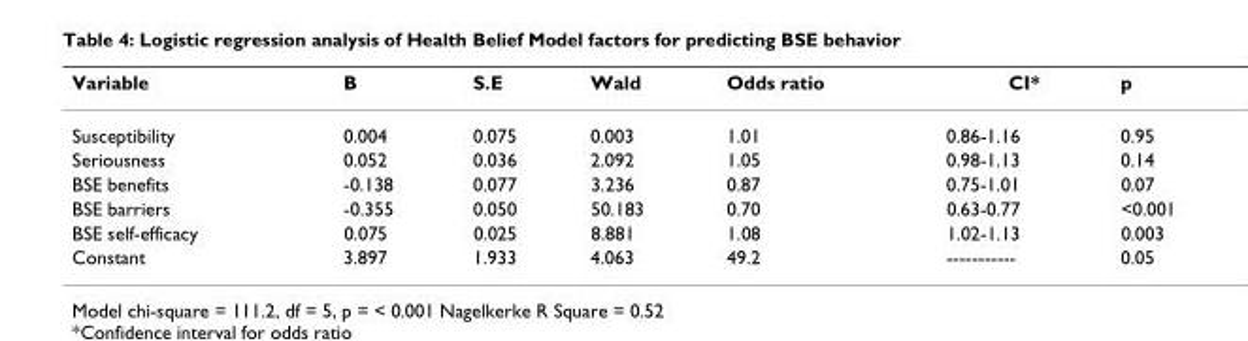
<table><thead><tr><td>Variable</td><td>B</td><td>S.E</td><td>Wald</td><td>Odds ratio</td><td>CI*</td><td>p</td></tr></thead><tbody><tr><td>Susceptibility</td><td>0.004</td><td>0.075</td><td>0.003</td><td>1.01</td><td>0.86-1.16</td><td>0.95</td></tr><tr><td>Seriousness</td><td>0.052</td><td>0.036</td><td>2.092</td><td>1.05</td><td>0.98-1.13</td><td>0.14</td></tr><tr><td>BSE benefits</td><td>-0.138</td><td>0.077</td><td>3.236</td><td>0.87</td><td>0.75-1.01</td><td>0.07</td></tr><tr><td>BSE barriers</td><td>-0.355</td><td>0.050</td><td>50.183</td><td>0.70</td><td>0.63-0.77</td><td>&lt;0.001</td></tr><tr><td>BSE self-efficacy</td><td>0.075</td><td>0.025</td><td>8.881</td><td>1.08</td><td>1.02-1.13</td><td>0.003</td></tr><tr><td>Constant</td><td>3.897</td><td>1.933</td><td>4.063</td><td>49.2</td><td>-----------</td><td>0.05</td></tr></tbody></table>